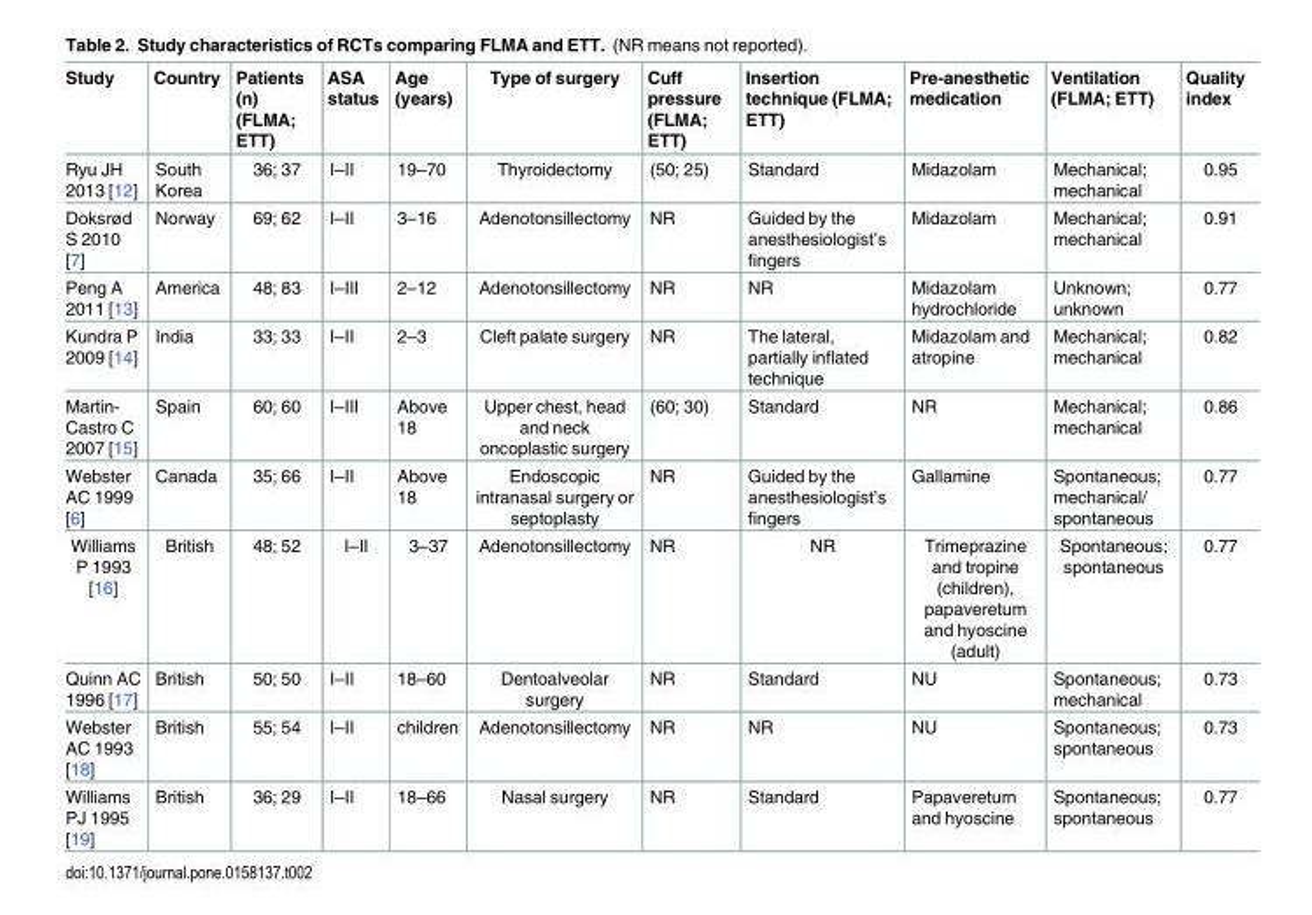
<table><thead><tr><td>Study</td><td>Country</td><td>Patients (n) (FLMA; ETT)</td><td>ASA status</td><td>Age (years)</td><td>Type of surgery</td><td>Cuff pressure (FLMA; ETT)</td><td>Insertion technique (FLMA; ETT)</td><td>Pre-anesthetic medication</td><td>Ventilation (FLMA; ETT)</td><td>Quality index</td></tr></thead><tbody><tr><td>Ryu JH 2013 [12]</td><td>South Korea</td><td>36; 37</td><td>I–II</td><td>19–70</td><td>Thyroidectomy</td><td>(50; 25)</td><td>Standard</td><td>Midazolam</td><td>Mechanical; mechanical</td><td>0.95</td></tr><tr><td>Doksrød S 2010 [7]</td><td>Norway</td><td>69; 62</td><td>I–II</td><td>3–16</td><td>Adenotonsillectomy</td><td>NR</td><td>Guided by the anesthesiologist’s fingers</td><td>Midazolam</td><td>Mechanical; mechanical</td><td>0.91</td></tr><tr><td>Peng A 2011 [13]</td><td>America</td><td>48; 83</td><td>I–III</td><td>2–12</td><td>Adenotonsillectomy</td><td>NR</td><td>NR</td><td>Midazolam hydrochloride</td><td>Unknown; unknown</td><td>0.77</td></tr><tr><td>Kundra P 2009 [14]</td><td>India</td><td>33; 33</td><td>I–II</td><td>2–3</td><td>Cleft palate surgery</td><td>NR</td><td>The lateral, partially inflated technique</td><td>Midazolam and atropine</td><td>Mechanical; mechanical</td><td>0.82</td></tr><tr><td>Martin- Castro C 2007 [15]</td><td>Spain</td><td>60; 60</td><td>I–III</td><td>Above 18</td><td>Upper chest, head and neck oncoplastic surgery</td><td>(60; 30)</td><td>Standard</td><td>NR</td><td>Mechanical; mechanical</td><td>0.86</td></tr><tr><td>Webster AC 1999 [6]</td><td>Canada</td><td>35; 66</td><td>I–II</td><td>Above 18</td><td>Endoscopic intranasal surgery or septoplasty</td><td>NR</td><td>Guided by the anesthesiologist’s fingers</td><td>Gallamine</td><td>Spontaneous; mechanical/ spontaneous</td><td>0.77</td></tr><tr><td>Williams P 1993 [16]</td><td>British</td><td>48; 52</td><td>I–II</td><td>3–37</td><td>Adenotonsillectomy</td><td>NR</td><td>NR</td><td>Trimeprazine and tropine (children), papaveretum and hyoscine (adult)</td><td>Spontaneous; spontaneous</td><td>0.77</td></tr><tr><td>Quinn AC 1996 [17]</td><td>British</td><td>50; 50</td><td>I–II</td><td>18–60</td><td>Dentoalveolar surgery</td><td>NR</td><td>Standard</td><td>NU</td><td>Spontaneous; mechanical</td><td>0.73</td></tr><tr><td>Webster AC 1993 [18]</td><td>British</td><td>55; 54</td><td>I–II</td><td>children</td><td>Adenotonsillectomy</td><td>NR</td><td>NR</td><td>NU</td><td>Spontaneous; spontaneous</td><td>0.73</td></tr><tr><td>Williams PJ 1995 [19]</td><td>British</td><td>36; 29</td><td>I–II</td><td>18–66</td><td>Nasal surgery</td><td>NR</td><td>Standard</td><td>Papavereturn and hyoscine</td><td>Spontaneous; spontaneous</td><td>0.77</td></tr></tbody></table>